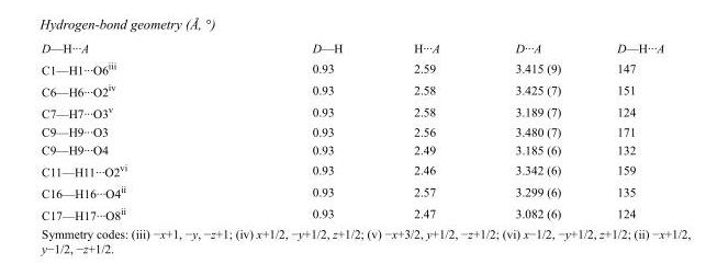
<table><tbody><tr><td>D—H···A</td><td>D—H</td><td>H···A</td><td>D···A</td><td>D—H···A</td></tr><tr><td>C1—H1···O6<sup>iii</sup></td><td>0.93</td><td>2.59</td><td>3.415 (9)</td><td>147</td></tr><tr><td>C6—H6···O2<sup>iv</sup></td><td>0.93</td><td>2.58</td><td>3.425 (7)</td><td>151</td></tr><tr><td>C7—H7···O3<sup>v</sup></td><td>0.93</td><td>2.58</td><td>3.189 (7)</td><td>124</td></tr><tr><td>C9—H9···O3</td><td>0.93</td><td>2.56</td><td>3.480 (7)</td><td>171</td></tr><tr><td>C9—H9···O4</td><td>0.93</td><td>2.49</td><td>3.185 (6)</td><td>132</td></tr><tr><td>C11—H11···O2<sup>vi</sup></td><td>0.93</td><td>2.46</td><td>3.342 (6)</td><td>159</td></tr><tr><td>C16—H16···O4<sup>ii</sup></td><td>0.93</td><td>2.57</td><td>3.299 (6)</td><td>135</td></tr><tr><td>C17—H17···O8<sup>ii</sup></td><td>0.93</td><td>2.47</td><td>3.082 (6)</td><td>124</td></tr></tbody></table>